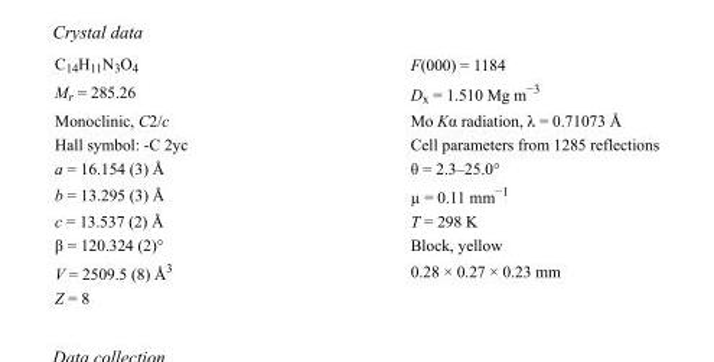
<table><tbody><tr><td>C<sub>14</sub>H<sub>11</sub>N<sub>3</sub>O<sub>4</sub></td><td>F(000) = 1184</td></tr><tr><td>M<sub>r</sub> = 285.26</td><td>D<sub>x</sub> = 1.510 Mg m<sup>−3</sup></td></tr><tr><td>Monoclinic, C2/c</td><td>Mo Kα radiation, λ = 0.71073 Å</td></tr><tr><td>Hall symbol: -C 2yc</td><td>Cell parameters from 1285 reflections</td></tr><tr><td>a = 16.154 (3) Å</td><td>θ = 2.3–25.0°</td></tr><tr><td>b = 13.295 (3) Å</td><td>µ = 0.11 mm<sup>−1</sup></td></tr><tr><td>c = 13.537 (2) Å</td><td>T = 298 K</td></tr><tr><td>β = 120.324 (2)°</td><td>Block, yellow</td></tr><tr><td>V = 2509.5 (8) Å<sup>3</sup></td><td>0.28 × 0.27 × 0.23 mm</td></tr><tr><td>Z = 8</td><td></td></tr></tbody></table>